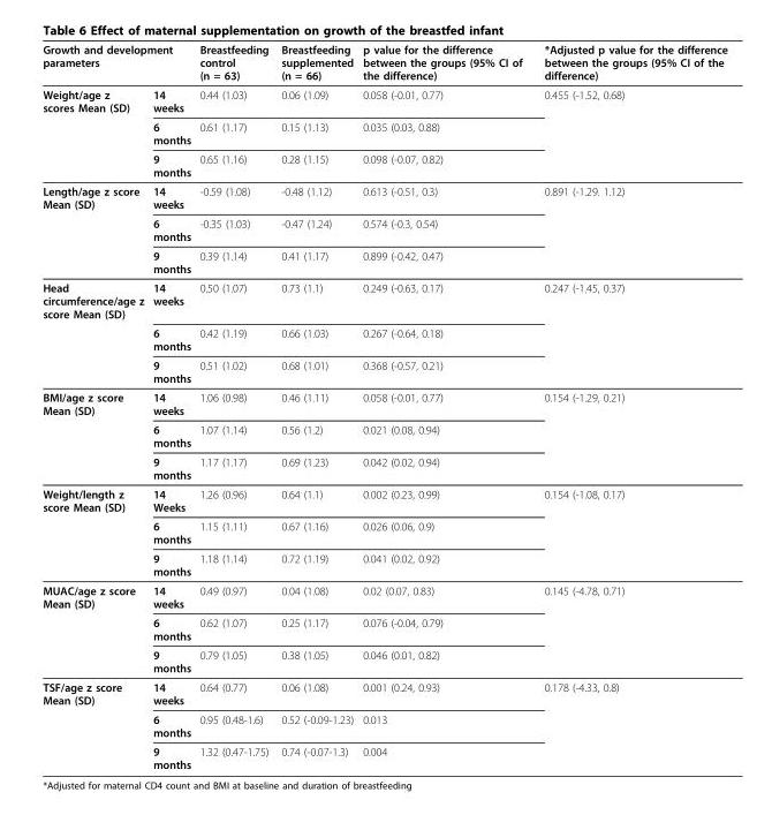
<table><thead><tr><td colspan="2">Growth and development parameters</td><td rowspan="2">Breastfeeding control (n = 63) 0.44 (1.03)</td><td rowspan="2">Breastfeeding supplemented (n = 66) 0.06 (1.09)</td><td rowspan="2">p value for the difference between the groups (95% CI of the difference) 0.058 (-0.01, 0.77)</td><td rowspan="2">*Adjusted p value for the difference between the groups (95% CI of the difference) 0.455 (-1.52, 0.68)</td></tr><tr><td>Weight/age z scores Mean (SD)</td><td>14 weeks</td></tr></thead><tbody><tr><td></td><td>6 months</td><td>0.61 (1.17)</td><td>0.15 (1.13)</td><td>0.035 (0.03, 0.88)</td><td></td></tr><tr><td></td><td>9 months</td><td>0.65 (1.16)</td><td>0.28 (1.15)</td><td>0.098 (-0.07, 0.82)</td><td></td></tr><tr><td rowspan="3">Length/age z score Mean (SD)</td><td>14 weeks</td><td>-0.59 (1.08)</td><td>-0.48 (1.12)</td><td>0.613 (-0.51, 0.3)</td><td>0.891 (-1.29. 1.12)</td></tr><tr><td>6 months</td><td>-0.35 (1.03)</td><td>-0.47 (1.24)</td><td>0.574 (-0.3, 0.54)</td><td></td></tr><tr><td>9 months</td><td>0.39 (1.14)</td><td>0.41 (1.17)</td><td>0.899 (-0.42, 0.47)</td><td></td></tr><tr><td rowspan="3">Head circumference/age z score Mean (SD)</td><td>14 weeks</td><td>0.50 (1.07)</td><td>0.73 (1.1)</td><td>0.249 (-0.63, 0.17)</td><td>0.247 (-1.45, 0.37)</td></tr><tr><td>6 months</td><td>0.42 (1.19)</td><td>0.66 (1.03)</td><td>0.267 (-0.64, 0.18)</td><td></td></tr><tr><td>9 months</td><td>0.51 (1.02)</td><td>0.68 (1.01)</td><td>0.368 (-0.57, 0.21)</td><td></td></tr><tr><td rowspan="3">BMI/age z score Mean (SD)</td><td>14 weeks</td><td>1.06 (0.98)</td><td>0.46 (1.11)</td><td>0.058 (-0.01, 0.77)</td><td>0.154 (-1.29, 0.21)</td></tr><tr><td>6 months</td><td>1.07 (1.14)</td><td>0.56 (1.2)</td><td>0.021 (0.08, 0.94)</td><td></td></tr><tr><td>9 months</td><td>1.17 (1.17)</td><td>0.69 (1.23)</td><td>0.042 (0.02, 0.94)</td><td></td></tr><tr><td rowspan="3">Weight/length z score Mean (SD)</td><td>14 Weeks</td><td>1.26 (0.96)</td><td>0.64 (1.1)</td><td>0.002 (0.23, 0.99)</td><td>0.154 (-1.08, 0.17)</td></tr><tr><td>6 months</td><td>1.15 (1.11)</td><td>0.67 (1.16)</td><td>0.026 (0.06, 0.9)</td><td></td></tr><tr><td>9 months</td><td>1.18 (1.14)</td><td>0.72 (1.19)</td><td>0.041 (0.02, 0.92)</td><td></td></tr><tr><td rowspan="3">MUAC/age z score Mean (SD)</td><td>14 weeks</td><td>0.49 (0.97)</td><td>0.04 (1.08)</td><td>0.02 (0.07, 0.83)</td><td>0.145 (-4.78, 0.71)</td></tr><tr><td>6 months</td><td>0.62 (1.07)</td><td>0.25 (1.17)</td><td>0.076 (-0.04, 0.79)</td><td></td></tr><tr><td>9 months</td><td>0.79 (1.05)</td><td>0.38 (1.05)</td><td>0.046 (0.01, 0.82)</td><td></td></tr><tr><td rowspan="3">TSF/age z score Mean (SD)</td><td>14 weeks</td><td>0.64 (0.77)</td><td>0.06 (1.08)</td><td>0.001 (0.24, 0.93)</td><td>0.178 (-4.33, 0.8)</td></tr><tr><td>6 months</td><td>0.95 (0.48-1.6)</td><td>0.52 (-0.09-1.23)</td><td>0.013</td><td></td></tr><tr><td>9 months</td><td>1.32 (0.47-1.75)</td><td>0.74 (-0.07-1.3)</td><td>0.004</td><td></td></tr></tbody></table>